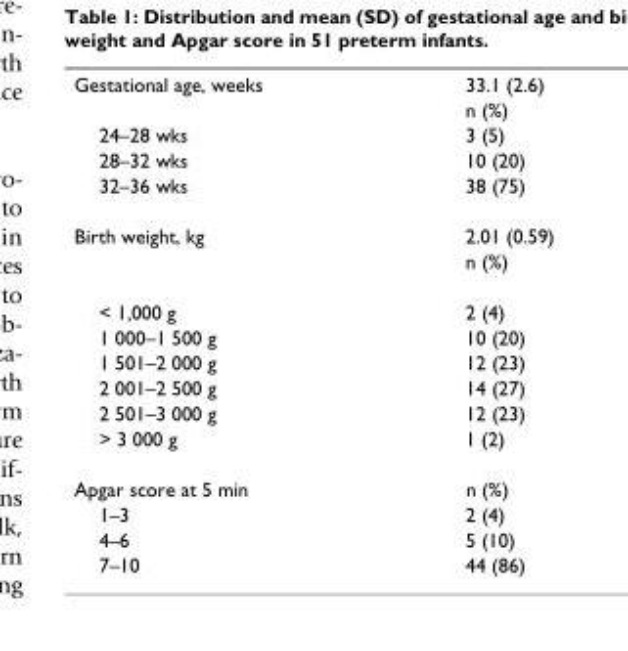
<table><tbody><tr><td rowspan="2">Gestational age, weeks</td><td>33.1 (2.6)</td></tr><tr><td>n (%)</td></tr><tr><td>24–28 wks</td><td>3 (5)</td></tr><tr><td>28–32 wks</td><td>10 (20)</td></tr><tr><td>32–36 wks</td><td>38 (75)</td></tr><tr><td rowspan="2">Birth weight, kg</td><td>2.01 (0.59)</td></tr><tr><td>n (%)</td></tr><tr><td>&lt; 1,000 g</td><td>2 (4)</td></tr><tr><td>1 000–1 500 g</td><td>10 (20)</td></tr><tr><td>1 501–2 000 g</td><td>12 (23)</td></tr><tr><td>2 001–2 500 g</td><td>14 (27)</td></tr><tr><td>2 501–3 000 g</td><td>12 (23)</td></tr><tr><td>&gt; 3 000 g</td><td>1 (2)</td></tr><tr><td>Apgar score at 5 min</td><td>n (%)</td></tr><tr><td>1–3</td><td>2 (4)</td></tr><tr><td>4–6</td><td>5 (10)</td></tr><tr><td>7–10</td><td>44 (86)</td></tr></tbody></table>